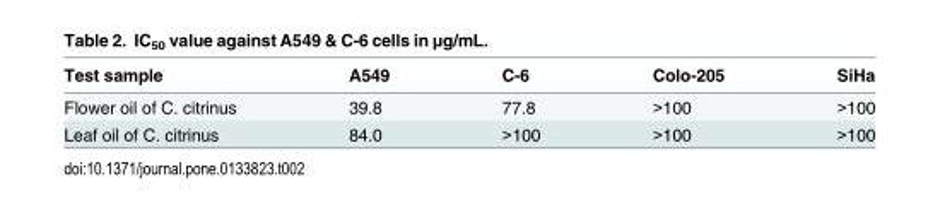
<table><thead><tr><td>Test sample</td><td>A549</td><td>C-6</td><td>Colo-205</td><td>SiHa</td></tr></thead><tbody><tr><td>Flower oil of C. citrinus</td><td>39.8</td><td>77.8</td><td>&gt;100</td><td>&gt;100</td></tr><tr><td>Leaf oil of C. citrinus</td><td>84.0</td><td>&gt;100</td><td>&gt;100</td><td>&gt;100</td></tr></tbody></table>